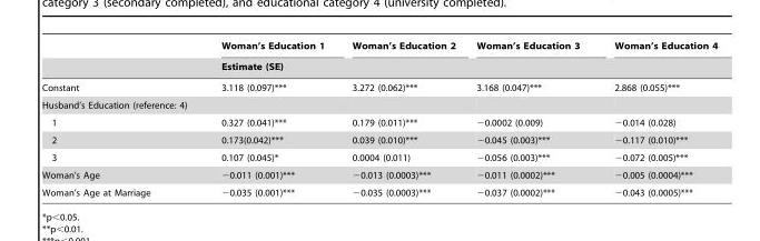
<table><thead><tr><td rowspan="2"></td><td>Woman’s Education 1</td><td>Woman’s Education 2</td><td>Woman’s Education 3</td><td>Woman’s Education 4</td></tr><tr><td colspan="4">Estimate (SE)</td></tr></thead><tbody><tr><td>Constant</td><td>3.118 (0.097)***</td><td>3.272 (0.062)***</td><td>3.168 (0.047)***</td><td>2.868 (0.055)***</td></tr><tr><td colspan="5">Husband’s Education (reference: 4)</td></tr><tr><td>1</td><td>0.327 (0.041)***</td><td>0.179 (0.011)***</td><td>−0.0002 (0.009)</td><td>−0.014 (0.028)</td></tr><tr><td>2</td><td>0.173(0.042)***</td><td>0.039 (0.010)***</td><td>−0.045 (0.003)***</td><td>−0.117 (0.010)***</td></tr><tr><td>3</td><td>0.107 (0.045)*</td><td>0.0004 (0.011)</td><td>−0.056 (0.003)***</td><td>−0.072 (0.005)***</td></tr><tr><td>Woman’s Age</td><td>−0.011 (0.001)***</td><td>−0.013 (0.0003)***</td><td>−0.011 (0.0002)***</td><td>−0.005 (0.0004)***</td></tr><tr><td>Woman’s Age at Marriage</td><td>−0.035 (0.001)***</td><td>−0.035 (0.0003)***</td><td>−0.037 (0.0002)***</td><td>−0.043 (0.0005)***</td></tr></tbody></table>